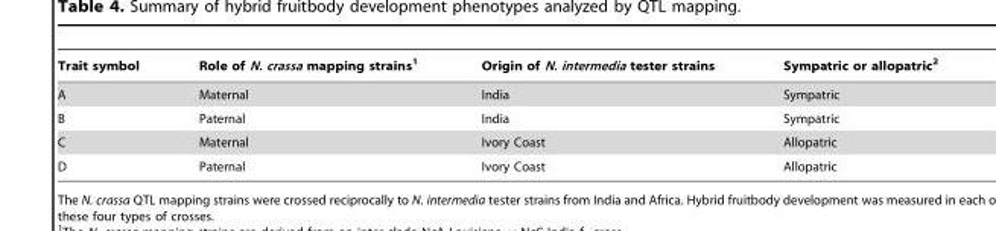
<table><thead><tr><td>Trait symbol</td><td>Role of N. crassa mapping strains<sup>1</sup></td><td>Origin of N. intermedia tester strains</td><td>Sympatric or allopatric<sup>2</sup></td></tr></thead><tbody><tr><td>A</td><td>Maternal</td><td>India</td><td>Sympatric</td></tr><tr><td>B</td><td>Paternal</td><td>India</td><td>Sympatric</td></tr><tr><td>C</td><td>Maternal</td><td>Ivory Coast</td><td>Allopatric</td></tr><tr><td>D</td><td>Paternal</td><td>Ivory Coast</td><td>Allopatric</td></tr></tbody></table>